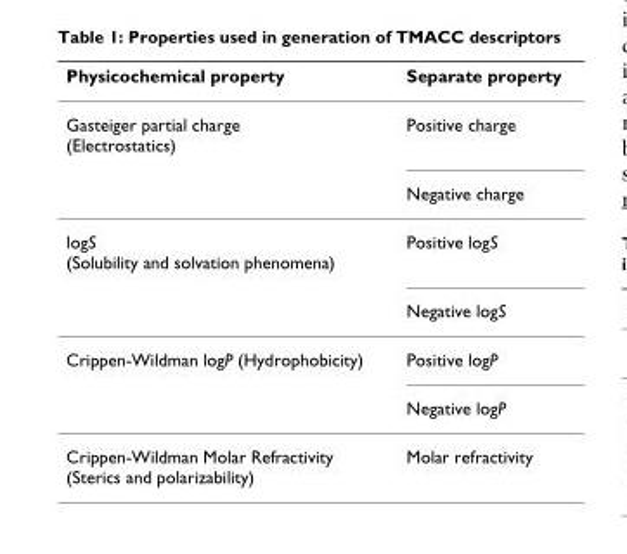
<table><thead><tr><td>Physicochemical property</td><td>Separate property</td></tr></thead><tbody><tr><td rowspan="2">Gasteiger partial charge (Electrostatics)</td><td>Positive charge</td></tr><tr><td>Negative charge</td></tr><tr><td rowspan="2">logS (Solubility and solvation phenomena)</td><td>Positive logS</td></tr><tr><td>Negative logS</td></tr><tr><td rowspan="2">Crippen-Wildman logP (Hydrophobicity)</td><td>Positive logP</td></tr><tr><td>Negative logP</td></tr><tr><td>Crippen-Wildman Molar Refractivity (Sterics and polarizability)</td><td>Molar refractivity</td></tr></tbody></table>